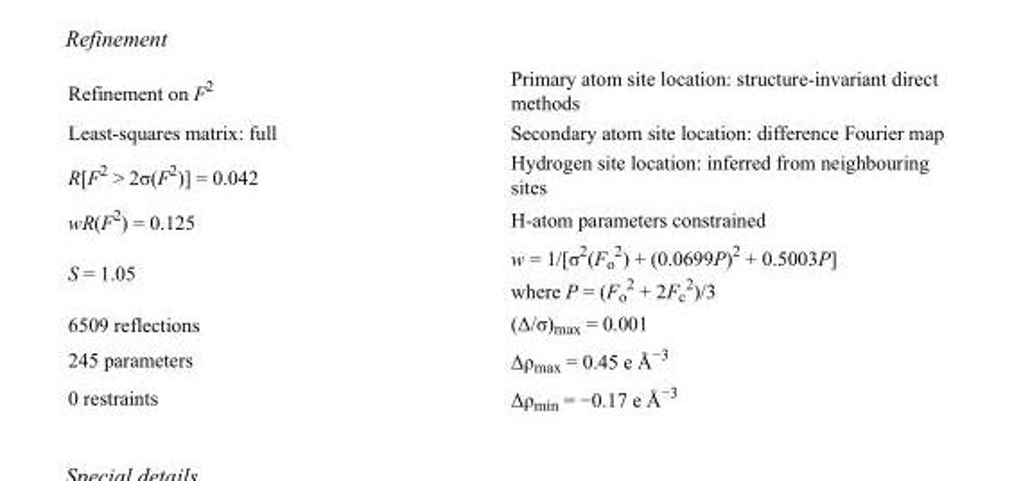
<table><tbody><tr><td>Refinement on F<sup>2</sup></td><td>Primary atom site location: structure-invariant direct methods</td></tr><tr><td>Least-squares matrix: full</td><td>Secondary atom site location: difference Fourier map</td></tr><tr><td>R[F<sup>2</sup> &gt; 2σ(F<sup>2</sup>)] = 0.042</td><td>Hydrogen site location: inferred from neighbouring sites</td></tr><tr><td>wR(F<sup>2</sup>) = 0.125</td><td>H-atom parameters constrained</td></tr><tr><td>S = 1.05</td><td>w = 1/[σ<sup>2</sup>(F<sub>o</sub> <sup>2</sup>) + (0.0699P)<sup>2</sup> + 0.5003P] where P = (F<sub>o</sub> <sup>2</sup> + 2F<sub>c</sub> <sup>2</sup>)/3</td></tr><tr><td>6509 reflections</td><td>(Δ/σ)<sub>max</sub> = 0.001</td></tr><tr><td>245 parameters</td><td>Δρ<sub>max</sub> = 0.45 e Å<sup>−3</sup></td></tr><tr><td>0 restraints</td><td>Δρ<sub>min</sub> = −0.17 e Å<sup>−3</sup></td></tr></tbody></table>